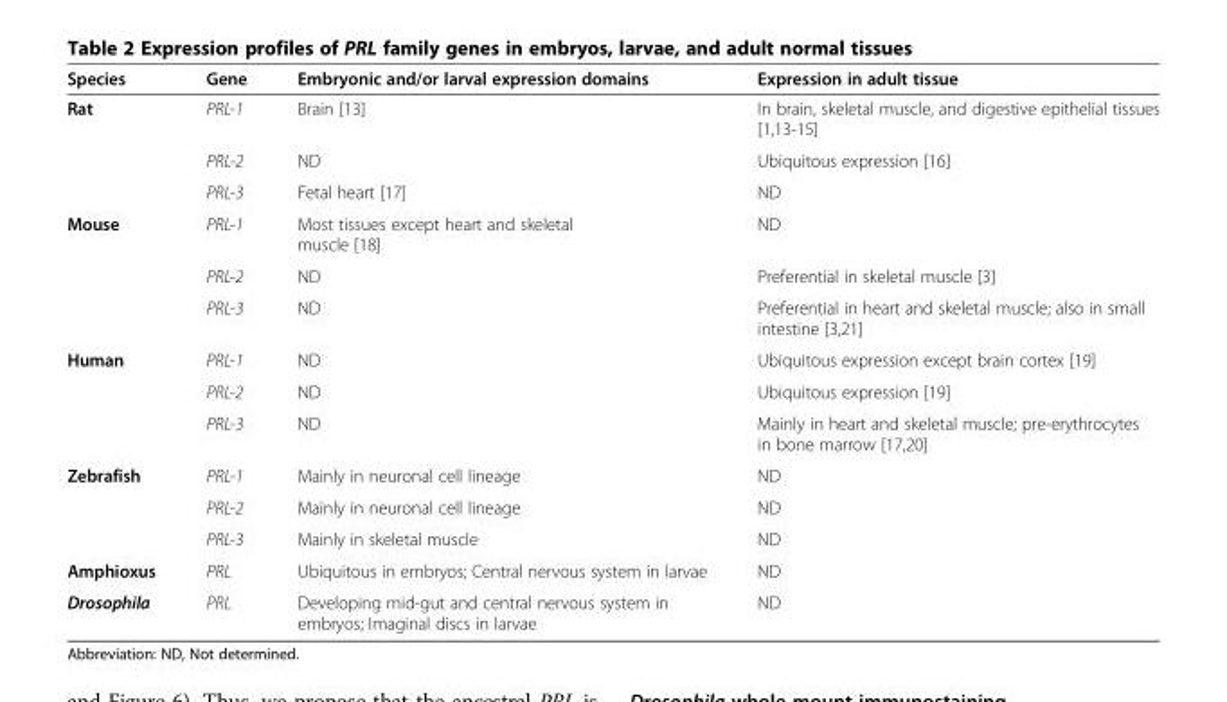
<table><thead><tr><td>Species</td><td>Gene</td><td>Embryonic and/or larval expression domains</td><td>Expression in adult tissue</td></tr></thead><tbody><tr><td rowspan="3">Rat</td><td>PRL-1</td><td>Brain [13]</td><td>In brain, skeletal muscle, and digestive epithelial tissues [1,13-15]</td></tr><tr><td>PRL-2</td><td>ND</td><td>Ubiquitous expression [16]</td></tr><tr><td>PRL-3</td><td>Fetal heart [17]</td><td>ND</td></tr><tr><td rowspan="3">Mouse</td><td>PRL-1</td><td>Most tissues except heart and skeletal muscle [18]</td><td>ND</td></tr><tr><td>PRL-2</td><td>ND</td><td>Preferential in skeletal muscle [3]</td></tr><tr><td>PRL-3</td><td>ND</td><td>Preferential in heart and skeletal muscle; also in small intestine [3,21]</td></tr><tr><td rowspan="3">Human</td><td>PRL-1</td><td>ND</td><td>Ubiquitous expression except brain cortex [19]</td></tr><tr><td>PRL-2</td><td>ND</td><td>Ubiquitous expression [19]</td></tr><tr><td>PRL-3</td><td>ND</td><td>Mainly in heart and skeletal muscle; pre-erythrocytes in bone marrow [17,20]</td></tr><tr><td rowspan="3">Zebrafish</td><td>PRL-1</td><td>Mainly in neuronal cell lineage</td><td>ND</td></tr><tr><td>PRL-2</td><td>Mainly in neuronal cell lineage</td><td>ND</td></tr><tr><td>PRL-3</td><td>Mainly in skeletal muscle</td><td>ND</td></tr><tr><td>Amphioxus</td><td>PRL</td><td>Ubiquitous in embryos; Central nervous system in larvae</td><td>ND</td></tr><tr><td>Drosophila</td><td>PRL</td><td>Developing mid-gut and central nervous system in embryos; Imaginal discs in larvae</td><td>ND</td></tr></tbody></table>